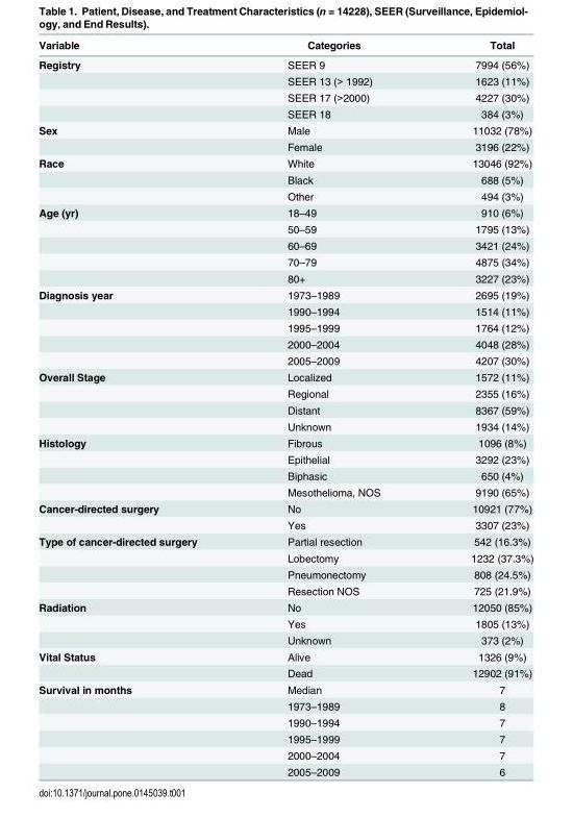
<table><thead><tr><td>Variable</td><td>Categories</td><td>Total</td></tr></thead><tbody><tr><td rowspan="4">Registry</td><td>SEER 9</td><td>7994 (56%)</td></tr><tr><td>SEER 13 (&gt; 1992)</td><td>1623 (11%)</td></tr><tr><td>SEER 17 (&gt;2000)</td><td>4227 (30%)</td></tr><tr><td>SEER 18</td><td>384 (3%)</td></tr><tr><td rowspan="2">Sex</td><td>Male</td><td>11032 (78%)</td></tr><tr><td>Female</td><td>3196 (22%)</td></tr><tr><td rowspan="3">Race</td><td>White</td><td>13046 (92%)</td></tr><tr><td>Black</td><td>688 (5%)</td></tr><tr><td>Other</td><td>494 (3%)</td></tr><tr><td rowspan="5">Age (yr)</td><td>18–49</td><td>910 (6%)</td></tr><tr><td>50–59</td><td>1795 (13%)</td></tr><tr><td>60–69</td><td>3421 (24%)</td></tr><tr><td>70–79</td><td>4875 (34%)</td></tr><tr><td>80+</td><td>3227 (23%)</td></tr><tr><td rowspan="5">Diagnosis year</td><td>1973–1989</td><td>2695 (19%)</td></tr><tr><td>1990–1994</td><td>1514 (11%)</td></tr><tr><td>1995–1999</td><td>1764 (12%)</td></tr><tr><td>2000–2004</td><td>4048 (28%)</td></tr><tr><td>2005–2009</td><td>4207 (30%)</td></tr><tr><td rowspan="4">Overall Stage</td><td>Localized</td><td>1572 (11%)</td></tr><tr><td>Regional</td><td>2355 (16%)</td></tr><tr><td>Distant</td><td>8367 (59%)</td></tr><tr><td>Unknown</td><td>1934 (14%)</td></tr><tr><td rowspan="4">Histology</td><td>Fibrous</td><td>1096 (8%)</td></tr><tr><td>Epithelial</td><td>3292 (23%)</td></tr><tr><td>Biphasic</td><td>650 (4%)</td></tr><tr><td>Mesothelioma, NOS</td><td>9190 (65%)</td></tr><tr><td rowspan="2">Cancer-directed surgery</td><td>No</td><td>10921 (77%)</td></tr><tr><td>Yes</td><td>3307 (23%)</td></tr><tr><td rowspan="4">Type of cancer-directed surgery</td><td>Partial resection</td><td>542 (16.3%)</td></tr><tr><td>Lobectomy</td><td>1232 (37.3%)</td></tr><tr><td>Pneumonectomy</td><td>808 (24.5%)</td></tr><tr><td>Resection NOS</td><td>725 (21.9%)</td></tr><tr><td rowspan="3">Radiation</td><td>No</td><td>12050 (85%)</td></tr><tr><td>Yes</td><td>1805 (13%)</td></tr><tr><td>Unknown</td><td>373 (2%)</td></tr><tr><td rowspan="2">Vital Status</td><td>Alive</td><td>1326 (9%)</td></tr><tr><td>Dead</td><td>12902 (91%)</td></tr><tr><td rowspan="6">Survival in months</td><td>Median</td><td>7</td></tr><tr><td>1973–1989</td><td>8</td></tr><tr><td>1990–1994</td><td>7</td></tr><tr><td>1995–1999</td><td>7</td></tr><tr><td>2000–2004</td><td>7</td></tr><tr><td>2005–2009</td><td>6</td></tr></tbody></table>